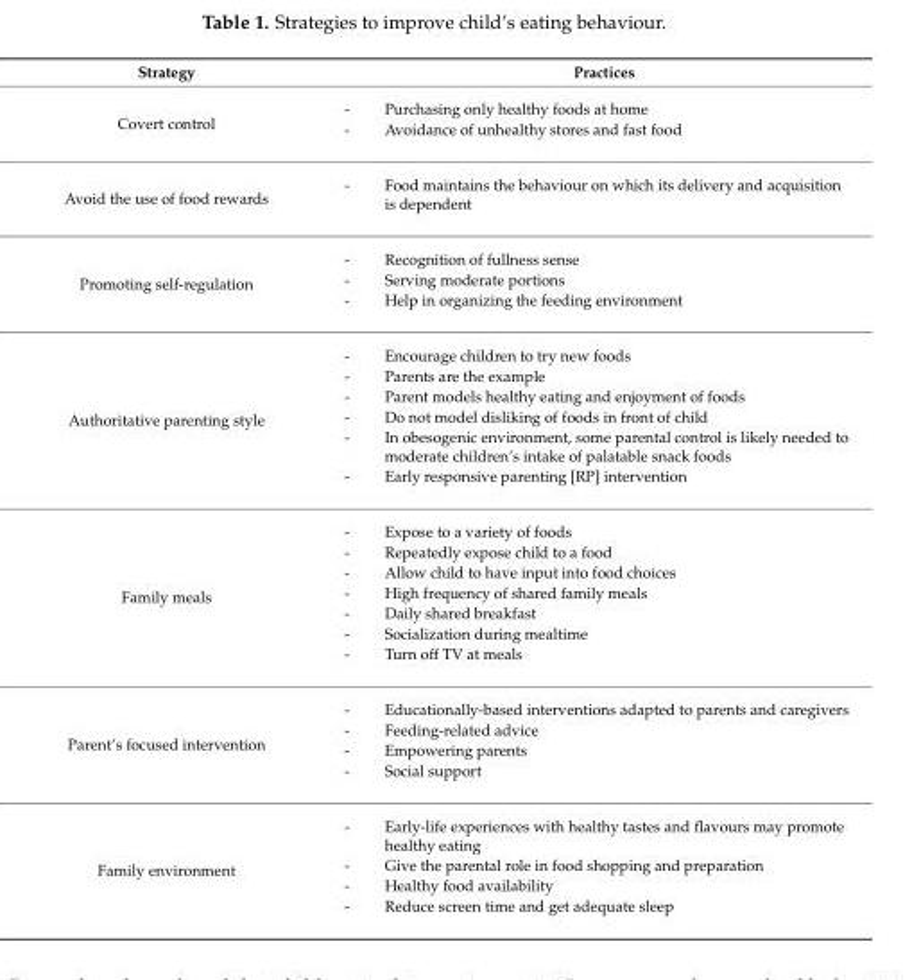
<table><thead><tr><td>Strategy</td><td>Practices</td></tr></thead><tbody><tr><td>Covert control</td><td>- Purchasing only healthy foods at home - Avoidance of unhealthy stores and fast food</td></tr><tr><td>Avoid the use of food rewards</td><td>- Food maintains the behaviour on which its delivery and acquisition is dependent</td></tr><tr><td>Promoting self-regulation</td><td>- Recognition of fullness sense - Serving moderate portions - Help in organizing the feeding environment</td></tr><tr><td>Authoritative parenting style</td><td>- Encourage children to try new foods - Parents are the example - Parent models healthy eating and enjoyment of foods - Do not model disliking of foods in front of child - In obesogenic environment, some parental control is likely needed to moderate children’s intake of palatable snack foods - Early responsive parenting [RP] intervention</td></tr><tr><td>Family meals</td><td>- Expose to a variety of foods - Repeatedly expose child to a food - Allow child to have input into food choices - High frequency of shared family meals - Daily shared breakfast - Socialization during mealtime - Turn off TV at meals</td></tr><tr><td>Parent’s focused intervention</td><td>- Educationally-based interventions adapted to parents and caregivers - Feeding-related advice - Empowering parents - Social support</td></tr><tr><td>Family environment</td><td>- Early-life experiences with healthy tastes and flavours may promote healthy eating - Give the parental role in food shopping and preparation - Healthy food availability - Reduce screen time and get adequate sleep</td></tr></tbody></table>